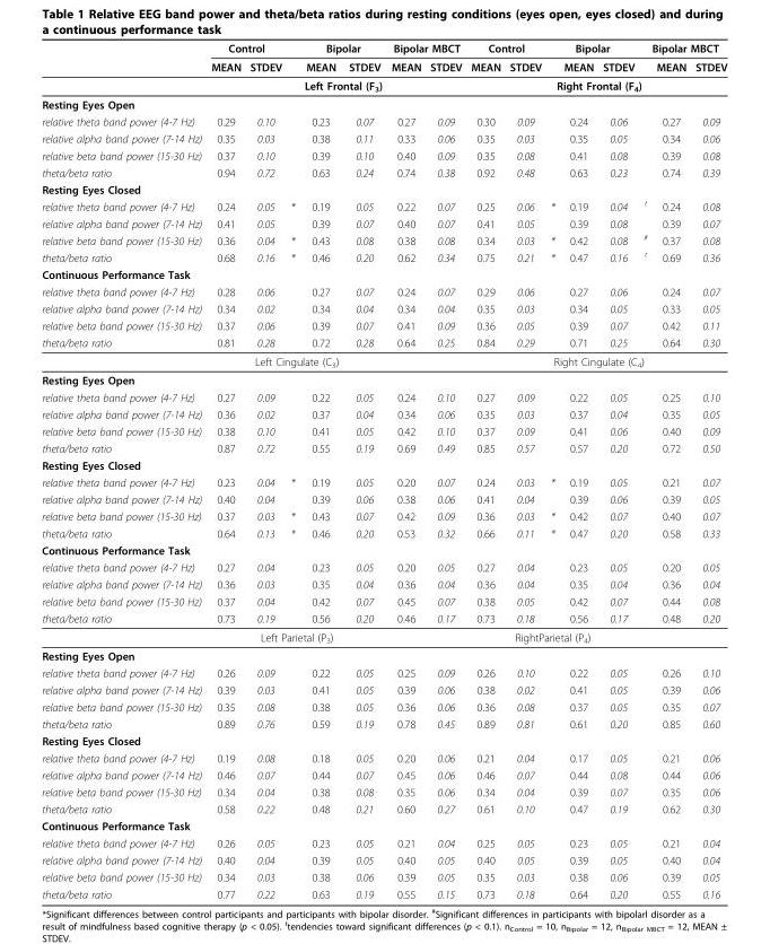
<table><thead><tr><td rowspan="2"></td><td colspan="2">Control</td><td rowspan="2"></td><td colspan="2">Bipolar</td><td colspan="2">Bipolar MBCT</td><td colspan="2">Control</td><td colspan="3">Bipolar</td><td colspan="3">Bipolar MBCT</td></tr><tr><td>MEAN</td><td>STDEV</td><td>MEAN</td><td>STDEV</td><td>MEAN</td><td>STDEV</td><td>MEAN</td><td>STDEV</td><td></td><td>MEAN</td><td>STDEV</td><td></td><td>MEAN</td><td>STDEV</td></tr></thead><tbody><tr><td></td><td></td><td></td><td></td><td colspan="2">Left Frontal (F<sub>3</sub>)</td><td></td><td></td><td colspan="8">Right Frontal (F<sub>4</sub>)</td></tr><tr><td colspan="16">Resting Eyes Open</td></tr><tr><td>relative theta band power (4-7 Hz)</td><td>0.29</td><td>0.10</td><td></td><td>0.23</td><td>0.07</td><td>0.27</td><td>0.09</td><td>0.30</td><td>0.09</td><td></td><td>0.24</td><td>0.06</td><td></td><td>0.27</td><td>0.09</td></tr><tr><td>relative alpha band power (7-14 Hz)</td><td>0.35</td><td>0.03</td><td></td><td>0.38</td><td>0.11</td><td>0.33</td><td>0.06</td><td>0.35</td><td>0.03</td><td></td><td>0.35</td><td>0.05</td><td></td><td>0.34</td><td>0.06</td></tr><tr><td>relative beta band power (15-30 Hz)</td><td>0.37</td><td>0.10</td><td></td><td>0.39</td><td>0.10</td><td>0.40</td><td>0.09</td><td>0.35</td><td>0.08</td><td></td><td>0.41</td><td>0.08</td><td></td><td>0.39</td><td>0.08</td></tr><tr><td>theta/beta ratio</td><td>0.94</td><td>0.72</td><td></td><td>0.63</td><td>0.24</td><td>0.74</td><td>0.38</td><td>0.92</td><td>0.48</td><td></td><td>0.63</td><td>0.23</td><td></td><td>0.74</td><td>0.39</td></tr><tr><td colspan="16">Resting Eyes Closed</td></tr><tr><td>relative theta band power (4-7 Hz)</td><td>0.24</td><td>0.05</td><td>*</td><td>0.19</td><td>0.05</td><td>0.22</td><td>0.07</td><td>0.25</td><td>0.06</td><td>*</td><td>0.19</td><td>0.04</td><td><sup>t</sup></td><td>0.24</td><td>0.08</td></tr><tr><td>relative alpha band power (7-14 Hz)</td><td>0.41</td><td>0.05</td><td></td><td>0.39</td><td>0.07</td><td>0.40</td><td>0.07</td><td>0.41</td><td>0.05</td><td></td><td>0.39</td><td>0.08</td><td></td><td>0.39</td><td>0.07</td></tr><tr><td>relative beta band power (15-30 Hz)</td><td>0.36</td><td>0.04</td><td>*</td><td>0.43</td><td>0.08</td><td>0.38</td><td>0.08</td><td>0.34</td><td>0.03</td><td>*</td><td>0.42</td><td>0.08</td><td><sup>#</sup></td><td>0.37</td><td>0.08</td></tr><tr><td>theta/beta ratio</td><td>0.68</td><td>0.16</td><td>*</td><td>0.46</td><td>0.20</td><td>0.62</td><td>0.34</td><td>0.75</td><td>0.21</td><td>*</td><td>0.47</td><td>0.16</td><td><sup>t</sup></td><td>0.69</td><td>0.36</td></tr><tr><td colspan="16">Continuous Performance Task</td></tr><tr><td>relative theta band power (4-7 Hz)</td><td>0.28</td><td>0.06</td><td></td><td>0.27</td><td>0.07</td><td>0.24</td><td>0.07</td><td>0.29</td><td>0.06</td><td></td><td>0.27</td><td>0.06</td><td></td><td>0.24</td><td>0.07</td></tr><tr><td>relative alpha band power (7-14 Hz)</td><td>0.34</td><td>0.02</td><td></td><td>0.34</td><td>0.04</td><td>0.34</td><td>0.04</td><td>0.35</td><td>0.03</td><td></td><td>0.34</td><td>0.05</td><td></td><td>0.33</td><td>0.05</td></tr><tr><td>relative beta band power (15-30 Hz)</td><td>0.37</td><td>0.06</td><td></td><td>0.39</td><td>0.07</td><td>0.41</td><td>0.09</td><td>0.36</td><td>0.05</td><td></td><td>0.39</td><td>0.07</td><td></td><td>0.42</td><td>0.11</td></tr><tr><td rowspan="2">theta/beta ratio</td><td>0.81</td><td>0.28</td><td></td><td>0.72</td><td>0.28</td><td>0.64</td><td>0.25</td><td>0.84</td><td>0.29</td><td></td><td>0.71</td><td>0.25</td><td></td><td>0.64</td><td>0.30</td></tr><tr><td colspan="5">Left Cingulate (C<sub>3</sub>)</td><td></td><td></td><td colspan="8">Right Cingulate (C<sub>4</sub>)</td></tr><tr><td colspan="16">Resting Eyes Open</td></tr><tr><td>relative theta band power (4-7 Hz)</td><td>0.27</td><td>0.09</td><td></td><td>0.22</td><td>0.05</td><td>0.24</td><td>0.10</td><td>0.27</td><td>0.09</td><td></td><td>0.22</td><td>0.05</td><td></td><td>0.25</td><td>0.10</td></tr><tr><td>relative alpha band power (7-14 Hz)</td><td>0.36</td><td>0.02</td><td></td><td>0.37</td><td>0.04</td><td>0.34</td><td>0.06</td><td>0.35</td><td>0.03</td><td></td><td>0.37</td><td>0.04</td><td></td><td>0.35</td><td>0.05</td></tr><tr><td>relative beta band power (15-30 Hz)</td><td>0.38</td><td>0.10</td><td></td><td>0.41</td><td>0.05</td><td>0.42</td><td>0.10</td><td>0.37</td><td>0.09</td><td></td><td>0.41</td><td>0.06</td><td></td><td>0.40</td><td>0.09</td></tr><tr><td>theta/beta ratio</td><td>0.87</td><td>0.72</td><td></td><td>0.55</td><td>0.19</td><td>0.69</td><td>0.49</td><td>0.85</td><td>0.57</td><td></td><td>0.57</td><td>0.20</td><td></td><td>0.72</td><td>0.50</td></tr><tr><td colspan="16">Resting Eyes Closed</td></tr><tr><td>relative theta band power (4-7 Hz)</td><td>0.23</td><td>0.04</td><td>*</td><td>0.19</td><td>0.05</td><td>0.20</td><td>0.07</td><td>0.24</td><td>0.03</td><td>*</td><td>0.19</td><td>0.05</td><td></td><td>0.21</td><td>0.07</td></tr><tr><td>relative alpha band power (7-14 Hz)</td><td>0.40</td><td>0.04</td><td></td><td>0.39</td><td>0.06</td><td>0.38</td><td>0.06</td><td>0.41</td><td>0.04</td><td></td><td>0.39</td><td>0.06</td><td></td><td>0.39</td><td>0.05</td></tr><tr><td>relative beta band power (15-30 Hz)</td><td>0.37</td><td>0.03</td><td>*</td><td>0.43</td><td>0.07</td><td>0.42</td><td>0.09</td><td>0.36</td><td>0.03</td><td>*</td><td>0.42</td><td>0.07</td><td></td><td>0.40</td><td>0.07</td></tr><tr><td>theta/beta ratio</td><td>0.64</td><td>0.13</td><td>*</td><td>0.46</td><td>0.20</td><td>0.53</td><td>0.32</td><td>0.66</td><td>0.11</td><td>*</td><td>0.47</td><td>0.20</td><td></td><td>0.58</td><td>0.33</td></tr><tr><td colspan="16">Continuous Performance Task</td></tr><tr><td>relative theta band power (4-7 Hz)</td><td>0.27</td><td>0.04</td><td></td><td>0.23</td><td>0.05</td><td>0.20</td><td>0.05</td><td>0.27</td><td>0.04</td><td></td><td>0.23</td><td>0.05</td><td></td><td>0.20</td><td>0.05</td></tr><tr><td>relative alpha band power (7-14 Hz)</td><td>0.36</td><td>0.03</td><td></td><td>0.35</td><td>0.04</td><td>0.36</td><td>0.04</td><td>0.36</td><td>0.04</td><td></td><td>0.35</td><td>0.04</td><td></td><td>0.36</td><td>0.04</td></tr><tr><td>relative beta band power (15-30 Hz)</td><td>0.37</td><td>0.04</td><td></td><td>0.42</td><td>0.07</td><td>0.45</td><td>0.07</td><td>0.38</td><td>0.05</td><td></td><td>0.42</td><td>0.07</td><td></td><td>0.44</td><td>0.08</td></tr><tr><td rowspan="2">theta/beta ratio</td><td>0.73</td><td>0.19</td><td></td><td>0.56</td><td>0.20</td><td>0.46</td><td>0.17</td><td>0.73</td><td>0.18</td><td></td><td>0.56</td><td>0.17</td><td></td><td>0.48</td><td>0.20</td></tr><tr><td colspan="5">Left Parietal (P<sub>3</sub>)</td><td></td><td></td><td colspan="5">RightParietal (P<sub>4</sub>)</td><td></td><td></td><td></td></tr><tr><td colspan="16">Resting Eyes Open</td></tr><tr><td>relative theta band power (4-7 Hz)</td><td>0.26</td><td>0.09</td><td></td><td>0.22</td><td>0.05</td><td>0.25</td><td>0.09</td><td>0.26</td><td>0.10</td><td></td><td>0.22</td><td>0.05</td><td></td><td>0.26</td><td>0.10</td></tr><tr><td>relative alpha band power (7-14 Hz)</td><td>0.39</td><td>0.03</td><td></td><td>0.41</td><td>0.05</td><td>0.39</td><td>0.06</td><td>0.38</td><td>0.02</td><td></td><td>0.41</td><td>0.05</td><td></td><td>0.39</td><td>0.06</td></tr><tr><td>relative beta band power (15-30 Hz)</td><td>0.35</td><td>0.08</td><td></td><td>0.38</td><td>0.05</td><td>0.36</td><td>0.06</td><td>0.36</td><td>0.08</td><td></td><td>0.37</td><td>0.05</td><td></td><td>0.35</td><td>0.07</td></tr><tr><td>theta/beta ratio</td><td>0.89</td><td>0.76</td><td></td><td>0.59</td><td>0.19</td><td>0.78</td><td>0.45</td><td>0.89</td><td>0.81</td><td></td><td>0.61</td><td>0.20</td><td></td><td>0.85</td><td>0.60</td></tr><tr><td colspan="16">Resting Eyes Closed</td></tr><tr><td>relative theta band power (4-7 Hz)</td><td>0.19</td><td>0.08</td><td></td><td>0.18</td><td>0.05</td><td>0.20</td><td>0.06</td><td>0.21</td><td>0.04</td><td></td><td>0.17</td><td>0.05</td><td></td><td>0.21</td><td>0.06</td></tr><tr><td>relative alpha band power (7-14 Hz)</td><td>0.46</td><td>0.07</td><td></td><td>0.44</td><td>0.07</td><td>0.45</td><td>0.06</td><td>0.46</td><td>0.07</td><td></td><td>0.44</td><td>0.08</td><td></td><td>0.44</td><td>0.06</td></tr><tr><td>relative beta band power (15-30 Hz)</td><td>0.34</td><td>0.04</td><td></td><td>0.38</td><td>0.08</td><td>0.35</td><td>0.06</td><td>0.34</td><td>0.04</td><td></td><td>0.39</td><td>0.07</td><td></td><td>0.35</td><td>0.06</td></tr><tr><td>theta/beta ratio</td><td>0.58</td><td>0.22</td><td></td><td>0.48</td><td>0.21</td><td>0.60</td><td>0.27</td><td>0.61</td><td>0.10</td><td></td><td>0.47</td><td>0.19</td><td></td><td>0.62</td><td>0.30</td></tr><tr><td colspan="16">Continuous Performance Task</td></tr><tr><td>relative theta band power (4-7 Hz)</td><td>0.26</td><td>0.05</td><td></td><td>0.23</td><td>0.05</td><td>0.21</td><td>0.04</td><td>0.25</td><td>0.05</td><td></td><td>0.23</td><td>0.05</td><td></td><td>0.21</td><td>0.04</td></tr><tr><td>relative alpha band power (7-14 Hz)</td><td>0.40</td><td>0.04</td><td></td><td>0.39</td><td>0.05</td><td>0.40</td><td>0.05</td><td>0.40</td><td>0.05</td><td></td><td>0.39</td><td>0.05</td><td></td><td>0.40</td><td>0.04</td></tr><tr><td>relative beta band power (15-30 Hz)</td><td>0.34</td><td>0.03</td><td></td><td>0.38</td><td>0.06</td><td>0.39</td><td>0.05</td><td>0.35</td><td>0.03</td><td></td><td>0.38</td><td>0.06</td><td></td><td>0.39</td><td>0.05</td></tr><tr><td>theta/beta ratio</td><td>0.77</td><td>0.22</td><td></td><td>0.63</td><td>0.19</td><td>0.55</td><td>0.15</td><td>0.73</td><td>0.18</td><td></td><td>0.64</td><td>0.20</td><td></td><td>0.55</td><td>0.16</td></tr></tbody></table>